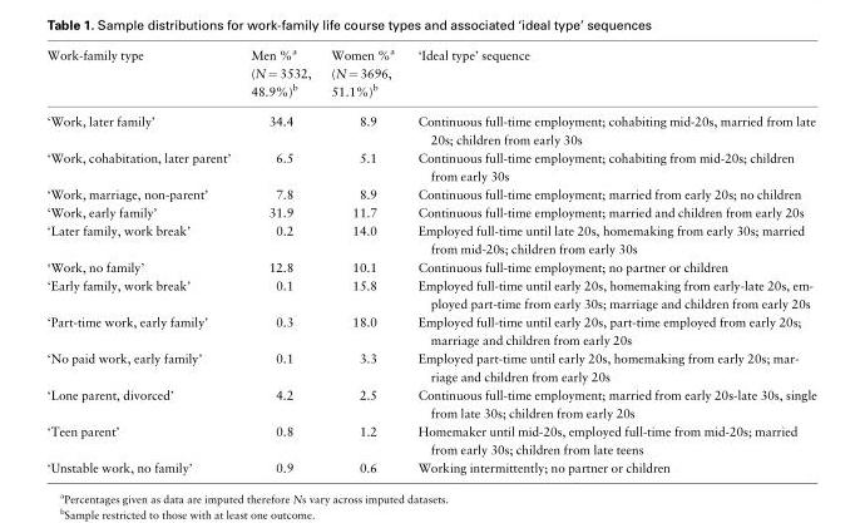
<table><thead><tr><td>Work-family type</td><td>Men %<sup>a</sup> (N = 3532, 48.9%)<sup>b</sup></td><td>Women %<sup>a</sup> (N = 3696, 51.1%)<sup>b</sup></td><td>‘Ideal type’ sequence</td></tr></thead><tbody><tr><td>‘Work, later family’</td><td>34.4</td><td>8.9</td><td>Continuous full-time employment; cohabiting mid-20s, married from late 20s; children from early 30s</td></tr><tr><td>‘Work, cohabitation, later parent’</td><td>6.5</td><td>5.1</td><td>Continuous full-time employment; cohabiting from mid-20s; children from early 30s</td></tr><tr><td>‘Work, marriage, non-parent’</td><td>7.8</td><td>8.9</td><td>Continuous full-time employment; married from early 20s; no children</td></tr><tr><td>‘Work, early family’</td><td>31.9</td><td>11.7</td><td>Continuous full-time employment; married and children from early 20s</td></tr><tr><td>‘Later family, work break’</td><td>0.2</td><td>14.0</td><td>Employed full-time until late 20s, homemaking from early 30s; married from mid-20s; children from early 30s</td></tr><tr><td>‘Work, no family’</td><td>12.8</td><td>10.1</td><td>Continuous full-time employment; no partner or children</td></tr><tr><td>‘Early family, work break’</td><td>0.1</td><td>15.8</td><td>Employed full-time until early 20s, homemaking from early-late 20s, em- ployed part-time from early 30s; marriage and children from early 20s</td></tr><tr><td>‘Part-time work, early family’</td><td>0.3</td><td>18.0</td><td>Employed full-time until early 20s, part-time employed from early 20s; marriage and children from early 20s</td></tr><tr><td>‘No paid work, early family’</td><td>0.1</td><td>3.3</td><td>Employed part-time until early 20s, homemaking from early 20s; mar- riage and children from early 20s</td></tr><tr><td>‘Lone parent, divorced’</td><td>4.2</td><td>2.5</td><td>Continuous full-time employment; married from early 20s-late 30s, single from late 30s; children from early 20s</td></tr><tr><td>‘Teen parent’</td><td>0.8</td><td>1.2</td><td>Homemaker until mid-20s, employed full-time from mid-20s; married from early 30s; children from late teens</td></tr><tr><td>‘Unstable work, no family’</td><td>0.9</td><td>0.6</td><td>Working intermittently; no partner or children</td></tr></tbody></table>